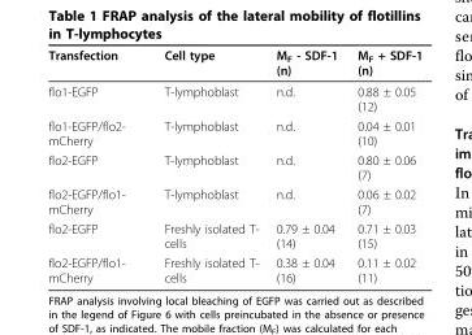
<table><thead><tr><td>Transfection</td><td>Cell type</td><td>M<sub>F</sub> - SDF-1 (n)</td><td>M<sub>F</sub> + SDF-1 (n)</td></tr></thead><tbody><tr><td>flo1-EGFP</td><td>T-lymphoblast</td><td>n.d.</td><td>0.88 ± 0.05 (12)</td></tr><tr><td>flo1-EGFP/flo2- mCherry</td><td>T-lymphoblast</td><td>n.d.</td><td>0.04 ± 0.01 (10)</td></tr><tr><td>flo2-EGFP</td><td>T-lymphoblast</td><td>n.d.</td><td>0.80 ± 0.06 (7)</td></tr><tr><td>flo2-EGFP/flo1- mCherry</td><td>T-lymphoblast</td><td>n.d.</td><td>0.06 ± 0.02 (7)</td></tr><tr><td>flo2-EGFP</td><td>Freshly isolated T- cells</td><td>0.79 ± 0.04 (14)</td><td>0.71 ± 0.03 (15)</td></tr><tr><td>flo2-EGFP/flo1- mCherry</td><td>Freshly isolated T- cells</td><td>0.38 ± 0.04 (16)</td><td>0.11 ± 0.02 (11)</td></tr></tbody></table>